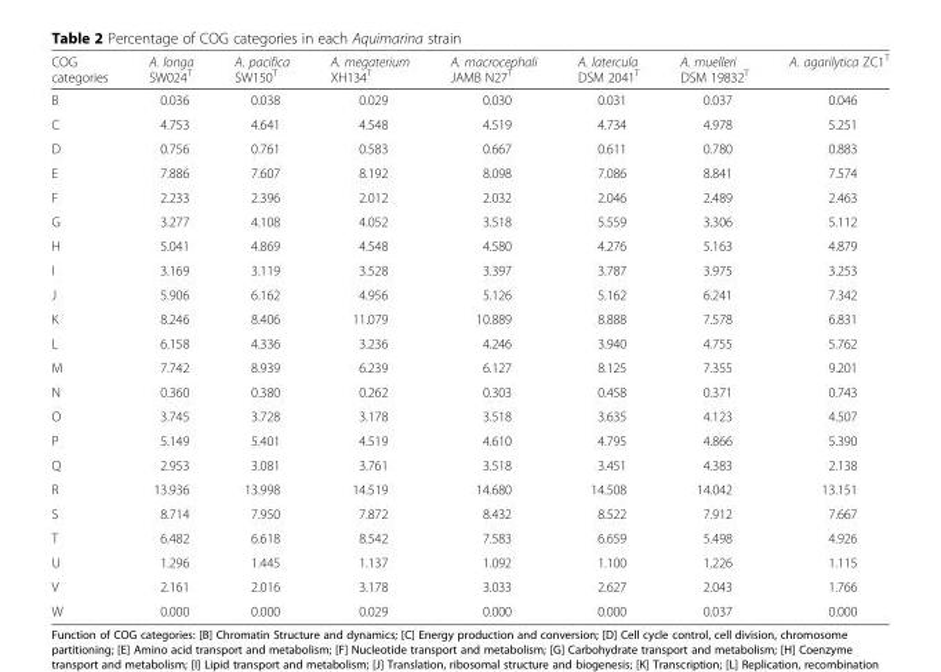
<table><thead><tr><td>COG categories</td><td>A. longa SW024<sup>T</sup></td><td>A. pacifica SW150<sup>T</sup></td><td>A. megaterium XH134<sup>T</sup></td><td>A. macrocephali JAMB N27<sup>T</sup></td><td>A. latercula DSM 2041<sup>T</sup></td><td>A. muelleri DSM 19832<sup>T</sup></td><td>A. agarilytica ZC1<sup>T</sup></td></tr></thead><tbody><tr><td>B</td><td>0.036</td><td>0.038</td><td>0.029</td><td>0.030</td><td>0.031</td><td>0.037</td><td>0.046</td></tr><tr><td>C</td><td>4.753</td><td>4.641</td><td>4.548</td><td>4.519</td><td>4.734</td><td>4.978</td><td>5.251</td></tr><tr><td>D</td><td>0.756</td><td>0.761</td><td>0.583</td><td>0.667</td><td>0.611</td><td>0.780</td><td>0.883</td></tr><tr><td>E</td><td>7.886</td><td>7.607</td><td>8.192</td><td>8.098</td><td>7.086</td><td>8.841</td><td>7.574</td></tr><tr><td>F</td><td>2.233</td><td>2.396</td><td>2.012</td><td>2.032</td><td>2.046</td><td>2.489</td><td>2.463</td></tr><tr><td>G</td><td>3.277</td><td>4.108</td><td>4.052</td><td>3.518</td><td>5.559</td><td>3.306</td><td>5.112</td></tr><tr><td>H</td><td>5.041</td><td>4.869</td><td>4.548</td><td>4.580</td><td>4.276</td><td>5.163</td><td>4.879</td></tr><tr><td>I</td><td>3.169</td><td>3.119</td><td>3.528</td><td>3.397</td><td>3.787</td><td>3.975</td><td>3.253</td></tr><tr><td>J</td><td>5.906</td><td>6.162</td><td>4.956</td><td>5.126</td><td>5.162</td><td>6.241</td><td>7.342</td></tr><tr><td>K</td><td>8.246</td><td>8.406</td><td>11.079</td><td>10.889</td><td>8.888</td><td>7.578</td><td>6.831</td></tr><tr><td>L</td><td>6.158</td><td>4.336</td><td>3.236</td><td>4.246</td><td>3.940</td><td>4.755</td><td>5.762</td></tr><tr><td>M</td><td>7.742</td><td>8.939</td><td>6.239</td><td>6.127</td><td>8.125</td><td>7.355</td><td>9.201</td></tr><tr><td>N</td><td>0.360</td><td>0.380</td><td>0.262</td><td>0.303</td><td>0.458</td><td>0.371</td><td>0.743</td></tr><tr><td>O</td><td>3.745</td><td>3.728</td><td>3.178</td><td>3.518</td><td>3.635</td><td>4.123</td><td>4.507</td></tr><tr><td>P</td><td>5.149</td><td>5.401</td><td>4.519</td><td>4.610</td><td>4.795</td><td>4.866</td><td>5.390</td></tr><tr><td>Q</td><td>2.953</td><td>3.081</td><td>3.761</td><td>3.518</td><td>3.451</td><td>4.383</td><td>2.138</td></tr><tr><td>R</td><td>13.936</td><td>13.998</td><td>14.519</td><td>14.680</td><td>14.508</td><td>14.042</td><td>13.151</td></tr><tr><td>S</td><td>8.714</td><td>7.950</td><td>7.872</td><td>8.432</td><td>8.522</td><td>7.912</td><td>7.667</td></tr><tr><td>T</td><td>6.482</td><td>6.618</td><td>8.542</td><td>7.583</td><td>6.659</td><td>5.498</td><td>4.926</td></tr><tr><td>U</td><td>1.296</td><td>1.445</td><td>1.137</td><td>1.092</td><td>1.100</td><td>1.226</td><td>1.115</td></tr><tr><td>V</td><td>2.161</td><td>2.016</td><td>3.178</td><td>3.033</td><td>2.627</td><td>2.043</td><td>1.766</td></tr><tr><td>W</td><td>0.000</td><td>0.000</td><td>0.029</td><td>0.000</td><td>0.000</td><td>0.037</td><td>0.000</td></tr></tbody></table>